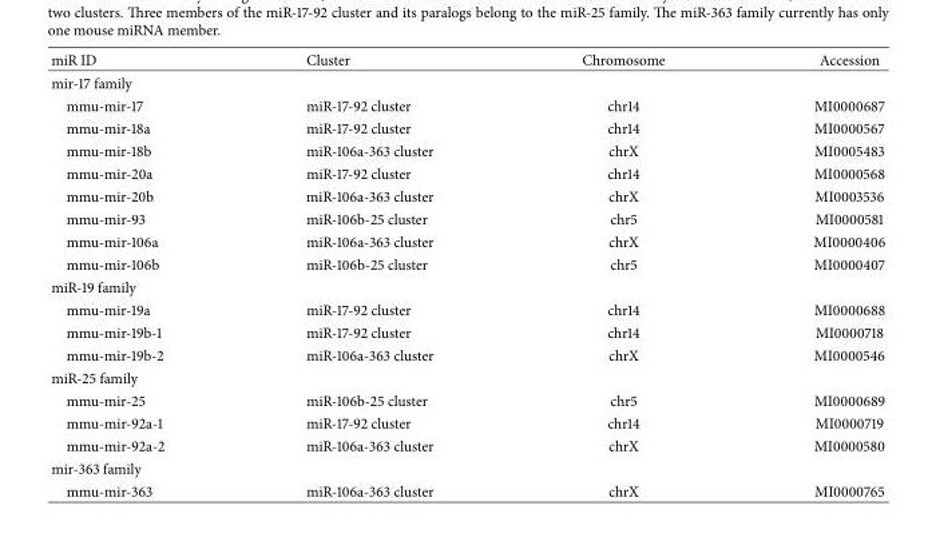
<table><thead><tr><td>miR ID</td><td>Cluster</td><td>Chromosome</td><td>Accession</td></tr></thead><tbody><tr><td colspan="4">mir-17 family</td></tr><tr><td>mmu-mir-17</td><td>miR-17-92 cluster</td><td>chr14</td><td>MI0000687</td></tr><tr><td>mmu-mir-18a</td><td>miR-17-92 cluster</td><td>chr14</td><td>MI0000567</td></tr><tr><td>mmu-mir-18b</td><td>miR-106a-363 cluster</td><td>chrX</td><td>MI0005483</td></tr><tr><td>mmu-mir-20a</td><td>miR-17-92 cluster</td><td>chr14</td><td>MI0000568</td></tr><tr><td>mmu-mir-20b</td><td>miR-106a-363 cluster</td><td>chrX</td><td>MI0003536</td></tr><tr><td>mmu-mir-93</td><td>miR-106b-25 cluster</td><td>chr5</td><td>MI0000581</td></tr><tr><td>mmu-mir-106a</td><td>miR-106a-363 cluster</td><td>chrX</td><td>MI0000406</td></tr><tr><td>mmu-mir-106b</td><td>miR-106b-25 cluster</td><td>chr5</td><td>MI0000407</td></tr><tr><td colspan="4">miR-19 family</td></tr><tr><td>mmu-mir-19a</td><td>miR-17-92 cluster</td><td>chr14</td><td>MI0000688</td></tr><tr><td>mmu-mir-19b-1</td><td>miR-17-92 cluster</td><td>chr14</td><td>MI0000718</td></tr><tr><td>mmu-mir-19b-2</td><td>miR-106a-363 cluster</td><td>chrX</td><td>MI0000546</td></tr><tr><td colspan="4">miR-25 family</td></tr><tr><td>mmu-mir-25</td><td>miR-106b-25 cluster</td><td>chr5</td><td>MI0000689</td></tr><tr><td>mmu-mir-92a-1</td><td>miR-17-92 cluster</td><td>chr14</td><td>MI0000719</td></tr><tr><td>mmu-mir-92a-2</td><td>miR-106a-363 cluster</td><td>chrX</td><td>MI0000580</td></tr><tr><td colspan="4">mir-363 family</td></tr><tr><td>mmu-mir-363</td><td>miR-106a-363 cluster</td><td>chrX</td><td>MI0000765</td></tr></tbody></table>